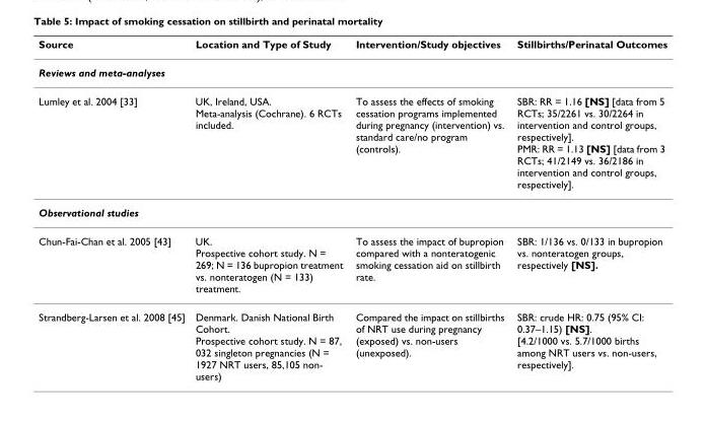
<table><thead><tr><td>Source</td><td>Location and Type of Study</td><td>Intervention/Study objectives</td><td>Stillbirths/Perinatal Outcomes</td></tr></thead><tbody><tr><td colspan="4">Reviews and meta-analyses</td></tr><tr><td>Lumley et al. 2004 [33]</td><td>UK, Ireland, USA. Meta-analysis (Cochrane). 6 RCTs included.</td><td>To assess the effects of smoking cessation programs implemented during pregnancy (intervention) vs. standard care/no program (controls).</td><td>SBR: RR = 1.16 [NS] [data from 5 RCTs; 35/2261 vs. 30/2264 in intervention and control groups, respectively]. PMR: RR = 1.13 [NS] [data from 3 RCTs; 41/2149 vs. 36/2186 in intervention and control groups, respectively].</td></tr><tr><td colspan="4">Observational studies</td></tr><tr><td>Chun-Fai-Chan et al. 2005 [43]</td><td>UK. Prospective cohort study. N = 269; N = 136 bupropion treatment vs. nonteratogen (N = 133) treatment.</td><td>To assess the impact of bupropion compared with a nonteratogenic smoking cessation aid on stillbirth rate.</td><td>SBR: 1/136 vs. 0/133 in bupropion vs. nonteratogen groups, respectively [NS].</td></tr><tr><td>Strandberg-Larsen et al. 2008 [45]</td><td>Denmark. Danish National Birth Cohort. Prospective cohort study. N = 87, 032 singleton pregnancies (N = 1927 NRT users, 85,105 non- users)</td><td>Compared the impact on stillbirths of NRT use during pregnancy (exposed) vs. non-users (unexposed).</td><td>SBR: crude HR: 0.75 (95% CI: 0.37–1.15) [NS]. [4.2/1000 vs. 5.7/1000 births among NRT users vs. non-users, respectively].</td></tr></tbody></table>